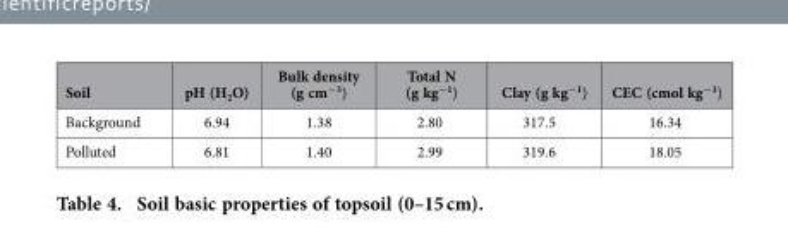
<table><thead><tr><td>Soil</td><td>pH (H<sub>2</sub>O)</td><td>Bulk density (g cm<sup>−3</sup>)</td><td>Total N (g kg<sup>−1</sup>)</td><td>Clay (g kg<sup>−1</sup>)</td><td>CEC (cmol kg<sup>−1</sup>)</td></tr></thead><tbody><tr><td>Background</td><td>6.94</td><td>1.38</td><td>2.80</td><td>317.5</td><td>16.34</td></tr><tr><td>Polluted</td><td>6.81</td><td>1.40</td><td>2.99</td><td>319.6</td><td>18.05</td></tr></tbody></table>